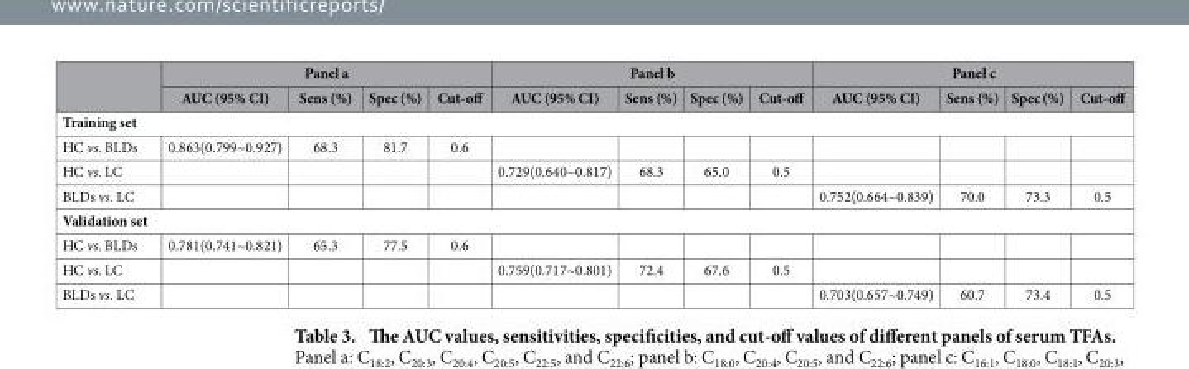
<table><thead><tr><td rowspan="2"></td><td colspan="4">Panel a</td><td colspan="4">Panel b</td><td colspan="4">Panel c</td></tr><tr><td>AUC (95% CI)</td><td>Sens (%)</td><td>Spec (%)</td><td>Cut-off</td><td>AUC (95% CI)</td><td>Sens (%)</td><td>Spec (%)</td><td>Cut-off</td><td>AUC (95% CI)</td><td>Sens (%)</td><td>Spec (%)</td><td>Cut-off</td></tr></thead><tbody><tr><td colspan="13">Training set</td></tr><tr><td>HC vs. BLDs</td><td>0.863(0.799~0.927)</td><td>68.3</td><td>81.7</td><td>0.6</td><td></td><td></td><td></td><td></td><td></td><td></td><td></td><td></td></tr><tr><td>HC vs. LC</td><td></td><td></td><td></td><td></td><td>0.729(0.640~0.817)</td><td>68.3</td><td>65.0</td><td>0.5</td><td></td><td></td><td></td><td></td></tr><tr><td>BLDs vs. LC</td><td></td><td></td><td></td><td></td><td></td><td></td><td></td><td></td><td>0.752(0.664~0.839)</td><td>70.0</td><td>73.3</td><td>0.5</td></tr><tr><td colspan="13">Validation set</td></tr><tr><td>HC vs. BLDs</td><td>0.781(0.741~0.821)</td><td>65.3</td><td>77.5</td><td>0.6</td><td></td><td></td><td></td><td></td><td></td><td></td><td></td><td></td></tr><tr><td>HC vs. LC</td><td></td><td></td><td></td><td></td><td>0.759(0.717~0.801)</td><td>72.4</td><td>67.6</td><td>0.5</td><td></td><td></td><td></td><td></td></tr><tr><td>BLDs vs. LC</td><td></td><td></td><td></td><td></td><td></td><td></td><td></td><td></td><td>0.703(0.657~0.749)</td><td>60.7</td><td>73.4</td><td>0.5</td></tr></tbody></table>